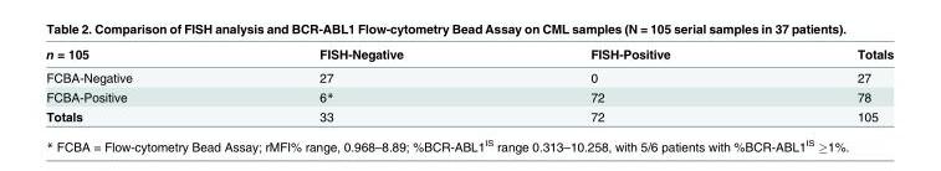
<table><thead><tr><td>n = 105</td><td>FISH-Negative</td><td>FISH-Positive</td><td>Totals</td></tr></thead><tbody><tr><td>FCBA-Negative</td><td>27</td><td>0</td><td>27</td></tr><tr><td>FCBA-Positive</td><td>6*</td><td>72</td><td>78</td></tr><tr><td>Totals</td><td>33</td><td>72</td><td>105</td></tr></tbody></table>